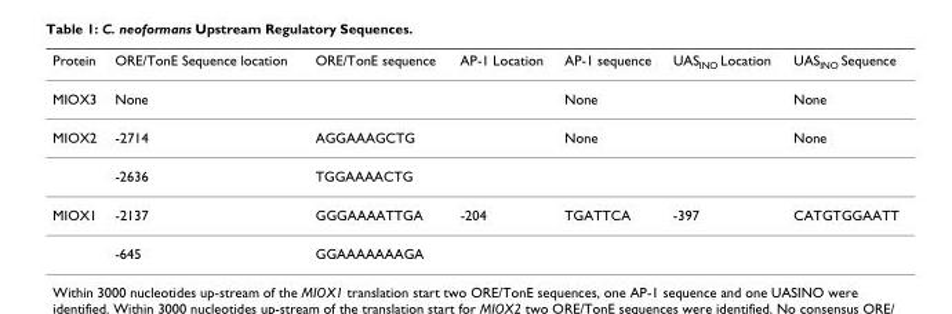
<table><thead><tr><td>Protein</td><td>ORE/TonE Sequence location</td><td>ORE/TonE sequence</td><td>AP-1 Location</td><td>AP-1 sequence</td><td>UAS<sub>INO</sub> Location</td><td>UAS<sub>INO</sub> Sequence</td></tr></thead><tbody><tr><td>MIOX3</td><td>None</td><td></td><td></td><td>None</td><td></td><td>None</td></tr><tr><td rowspan="2">MIOX2</td><td>-2714</td><td>AGGAAAGCTG</td><td></td><td>None</td><td></td><td>None</td></tr><tr><td>-2636</td><td>TGGAAAACTG</td><td></td><td></td><td></td><td></td></tr><tr><td rowspan="2">MIOX1</td><td>-2137</td><td>GGGAAAATTGA</td><td>-204</td><td>TGATTCA</td><td>-397</td><td>CATGTGGAATT</td></tr><tr><td>-645</td><td>GGAAAAAAAGA</td><td></td><td></td><td></td><td></td></tr></tbody></table>